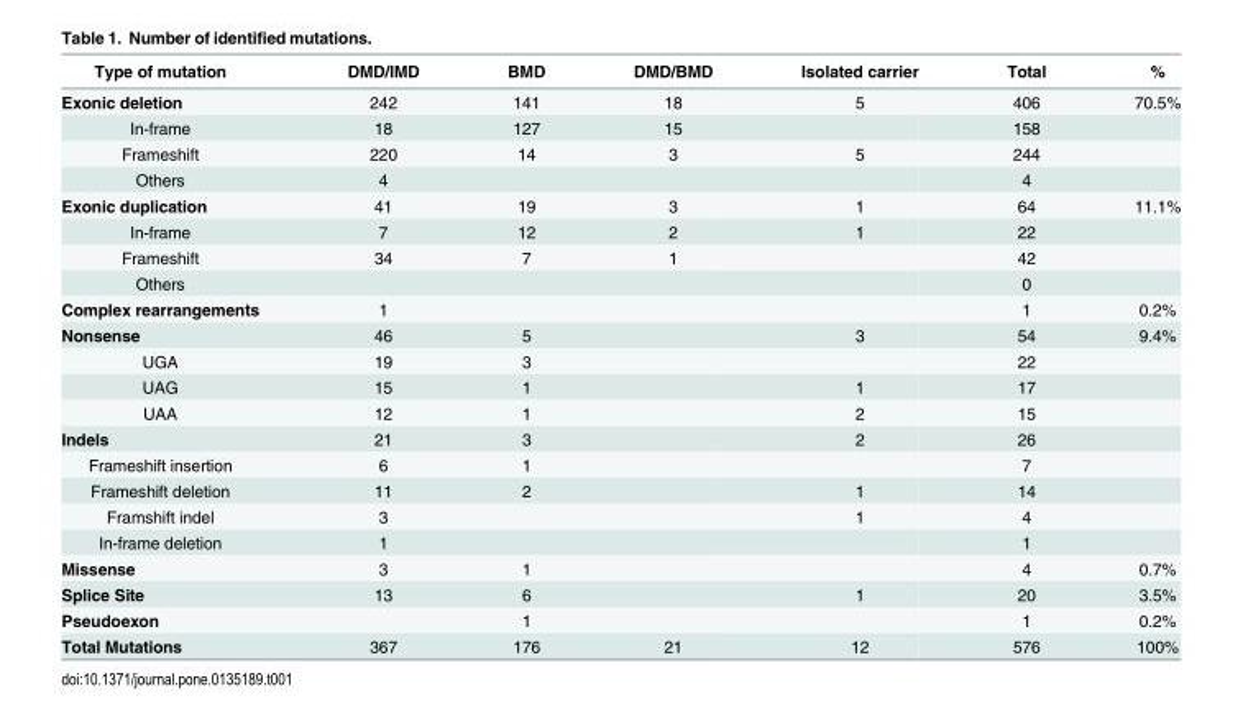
<table><thead><tr><td>Type of mutation</td><td>DMD/IMD</td><td>BMD</td><td>DMD/BMD</td><td>Isolated carrier</td><td>Total</td><td>%</td></tr></thead><tbody><tr><td>Exonic deletion</td><td>242</td><td>141</td><td>18</td><td>5</td><td>406</td><td>70.5%</td></tr><tr><td>In-frame</td><td>18</td><td>127</td><td>15</td><td></td><td>158</td><td></td></tr><tr><td>Frameshift</td><td>220</td><td>14</td><td>3</td><td>5</td><td>244</td><td></td></tr><tr><td>Others</td><td>4</td><td></td><td></td><td></td><td>4</td><td></td></tr><tr><td>Exonic duplication</td><td>41</td><td>19</td><td>3</td><td>1</td><td>64</td><td>11.1%</td></tr><tr><td>In-frame</td><td>7</td><td>12</td><td>2</td><td>1</td><td>22</td><td></td></tr><tr><td>Frameshift</td><td>34</td><td>7</td><td>1</td><td></td><td>42</td><td></td></tr><tr><td>Others</td><td></td><td></td><td></td><td></td><td>0</td><td></td></tr><tr><td>Complex rearrangements</td><td>1</td><td></td><td></td><td></td><td>1</td><td>0.2%</td></tr><tr><td>Nonsense</td><td>46</td><td>5</td><td></td><td>3</td><td>54</td><td>9.4%</td></tr><tr><td>UGA</td><td>19</td><td>3</td><td></td><td></td><td>22</td><td></td></tr><tr><td>UAG</td><td>15</td><td>1</td><td></td><td>1</td><td>17</td><td></td></tr><tr><td>UAA</td><td>12</td><td>1</td><td></td><td>2</td><td>15</td><td></td></tr><tr><td>Indels</td><td>21</td><td>3</td><td></td><td>2</td><td>26</td><td></td></tr><tr><td>Frameshift insertion</td><td>6</td><td>1</td><td></td><td></td><td>7</td><td></td></tr><tr><td>Frameshift deletion</td><td>11</td><td>2</td><td></td><td>1</td><td>14</td><td></td></tr><tr><td>Framshift indel</td><td>3</td><td></td><td></td><td>1</td><td>4</td><td></td></tr><tr><td>In-frame deletion</td><td>1</td><td></td><td></td><td></td><td>1</td><td></td></tr><tr><td>Missense</td><td>3</td><td>1</td><td></td><td></td><td>4</td><td>0.7%</td></tr><tr><td>Splice Site</td><td>13</td><td>6</td><td></td><td>1</td><td>20</td><td>3.5%</td></tr><tr><td>Pseudoexon</td><td></td><td>1</td><td></td><td></td><td>1</td><td>0.2%</td></tr><tr><td>Total Mutations</td><td>367</td><td>176</td><td>21</td><td>12</td><td>576</td><td>100%</td></tr></tbody></table>